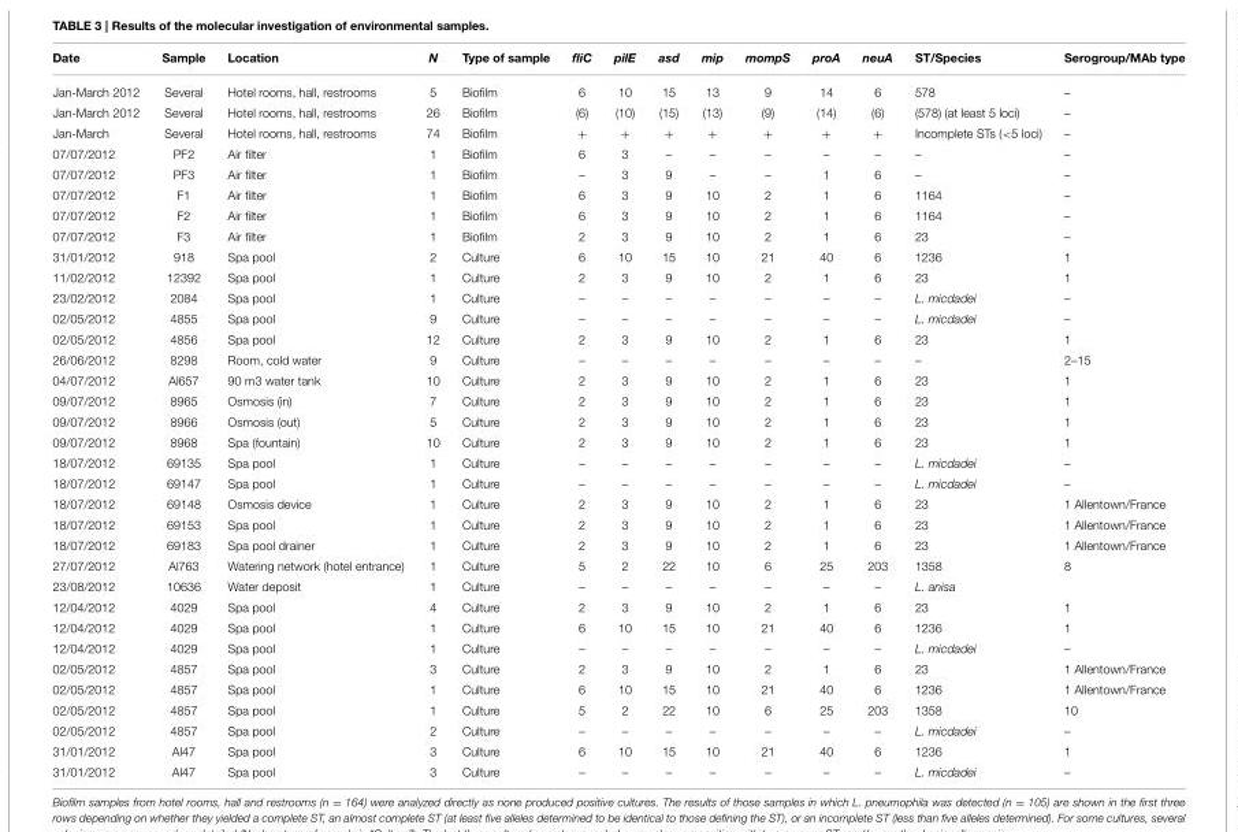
<table><thead><tr><td>Date</td><td>Sample</td><td>Location</td><td>N</td><td>Type of sample</td><td>fliC</td><td>pilE</td><td>asd</td><td>mip</td><td>mompS</td><td>proA</td><td>neuA</td><td>ST/Species</td><td>Serogroup/MAb type</td></tr></thead><tbody><tr><td>Jan-March 2012</td><td>Several</td><td>Hotel rooms, hall, restrooms</td><td>5</td><td>Biofilm</td><td>6</td><td>10</td><td>15</td><td>13</td><td>9</td><td>14</td><td>6</td><td>578</td><td>–</td></tr><tr><td>Jan-March 2012</td><td>Several</td><td>Hotel rooms, hall, restrooms</td><td>26</td><td>Biofilm</td><td>(6)</td><td>(10)</td><td>(15)</td><td>(13)</td><td>(9)</td><td>(14)</td><td>(6)</td><td>(578) (at least 5 loci)</td><td>–</td></tr><tr><td>Jan-March</td><td>Several</td><td>Hotel rooms, hall, restrooms</td><td>74</td><td>Biofilm</td><td>+</td><td>+</td><td>+</td><td>+</td><td>+</td><td>+</td><td>+</td><td>Incomplete STs (&lt;5 loci)</td><td>–</td></tr><tr><td>07/07/2012</td><td>PF2</td><td>Air filter</td><td>1</td><td>Biofilm</td><td>6</td><td>3</td><td>–</td><td>–</td><td>–</td><td>–</td><td>–</td><td>–</td><td>–</td></tr><tr><td>07/07/2012</td><td>PF3</td><td>Air filter</td><td>1</td><td>Biofilm</td><td>–</td><td>3</td><td>9</td><td>–</td><td>–</td><td>1</td><td>6</td><td>–</td><td>–</td></tr><tr><td>07/07/2012</td><td>F1</td><td>Air filter</td><td>1</td><td>Biofilm</td><td>6</td><td>3</td><td>9</td><td>10</td><td>2</td><td>1</td><td>6</td><td>1164</td><td>–</td></tr><tr><td>07/07/2012</td><td>F2</td><td>Air filter</td><td>1</td><td>Biofilm</td><td>6</td><td>3</td><td>9</td><td>10</td><td>2</td><td>1</td><td>6</td><td>1164</td><td>–</td></tr><tr><td>07/07/2012</td><td>F3</td><td>Air filter</td><td>1</td><td>Biofilm</td><td>2</td><td>3</td><td>9</td><td>10</td><td>2</td><td>1</td><td>6</td><td>23</td><td>–</td></tr><tr><td>31/01/2012</td><td>918</td><td>Spa pool</td><td>2</td><td>Culture</td><td>6</td><td>10</td><td>15</td><td>10</td><td>21</td><td>40</td><td>6</td><td>1236</td><td>1</td></tr><tr><td>11/02/2012</td><td>12392</td><td>Spa pool</td><td>1</td><td>Culture</td><td>2</td><td>3</td><td>9</td><td>10</td><td>2</td><td>1</td><td>6</td><td>23</td><td>1</td></tr><tr><td>23/02/2012</td><td>2084</td><td>Spa pool</td><td>1</td><td>Culture</td><td>–</td><td>–</td><td>–</td><td>–</td><td>–</td><td>–</td><td>–</td><td>L. micdadei</td><td>–</td></tr><tr><td>02/05/2012</td><td>4855</td><td>Spa pool</td><td>9</td><td>Culture</td><td>–</td><td>–</td><td>–</td><td>–</td><td>–</td><td>–</td><td>–</td><td>L. micdadei</td><td>–</td></tr><tr><td>02/05/2012</td><td>4856</td><td>Spa pool</td><td>12</td><td>Culture</td><td>2</td><td>3</td><td>9</td><td>10</td><td>2</td><td>1</td><td>6</td><td>23</td><td>1</td></tr><tr><td>26/06/2012</td><td>8298</td><td>Room, cold water</td><td>9</td><td>Culture</td><td>–</td><td>–</td><td>–</td><td>–</td><td>–</td><td>–</td><td>–</td><td>–</td><td>2–15</td></tr><tr><td>04/07/2012</td><td>Al657</td><td>90 m3 water tank</td><td>10</td><td>Culture</td><td>2</td><td>3</td><td>9</td><td>10</td><td>2</td><td>1</td><td>6</td><td>23</td><td>1</td></tr><tr><td>09/07/2012</td><td>8965</td><td>Osmosis (in)</td><td>7</td><td>Culture</td><td>2</td><td>3</td><td>9</td><td>10</td><td>2</td><td>1</td><td>6</td><td>23</td><td>1</td></tr><tr><td>09/07/2012</td><td>8966</td><td>Osmosis (out)</td><td>5</td><td>Culture</td><td>2</td><td>3</td><td>9</td><td>10</td><td>2</td><td>1</td><td>6</td><td>23</td><td>1</td></tr><tr><td>09/07/2012</td><td>8968</td><td>Spa (fountain)</td><td>10</td><td>Culture</td><td>2</td><td>3</td><td>9</td><td>10</td><td>2</td><td>1</td><td>6</td><td>23</td><td>1</td></tr><tr><td>18/07/2012</td><td>69135</td><td>Spa pool</td><td>1</td><td>Culture</td><td>–</td><td>–</td><td>–</td><td>–</td><td>–</td><td>–</td><td>–</td><td>L. micdadei</td><td>–</td></tr><tr><td>18/07/2012</td><td>69147</td><td>Spa pool</td><td>1</td><td>Culture</td><td>–</td><td>–</td><td>–</td><td>–</td><td>–</td><td>–</td><td>–</td><td>L. micdadei</td><td>–</td></tr><tr><td>18/07/2012</td><td>69148</td><td>Osmosis device</td><td>1</td><td>Culture</td><td>2</td><td>3</td><td>9</td><td>10</td><td>2</td><td>1</td><td>6</td><td>23</td><td>1 Allentown/France</td></tr><tr><td>18/07/2012</td><td>69153</td><td>Spa pool</td><td>1</td><td>Culture</td><td>2</td><td>3</td><td>9</td><td>10</td><td>2</td><td>1</td><td>6</td><td>23</td><td>1 Allentown/France</td></tr><tr><td>18/07/2012</td><td>69183</td><td>Spa pool drainer</td><td>1</td><td>Culture</td><td>2</td><td>3</td><td>9</td><td>10</td><td>2</td><td>1</td><td>6</td><td>23</td><td>1 Allentown/France</td></tr><tr><td>27/07/2012</td><td>Al763</td><td>Watering network (hotel entrance)</td><td>1</td><td>Culture</td><td>5</td><td>2</td><td>22</td><td>10</td><td>6</td><td>25</td><td>203</td><td>1358</td><td>8</td></tr><tr><td>23/08/2012</td><td>10636</td><td>Water deposit</td><td>1</td><td>Culture</td><td>–</td><td>–</td><td>–</td><td>–</td><td>–</td><td>–</td><td>–</td><td>L. anisa</td><td></td></tr><tr><td>12/04/2012</td><td>4029</td><td>Spa pool</td><td>4</td><td>Culture</td><td>2</td><td>3</td><td>9</td><td>10</td><td>2</td><td>1</td><td>6</td><td>23</td><td>1</td></tr><tr><td>12/04/2012</td><td>4029</td><td>Spa pool</td><td>1</td><td>Culture</td><td>6</td><td>10</td><td>15</td><td>10</td><td>21</td><td>40</td><td>6</td><td>1236</td><td>1</td></tr><tr><td>12/04/2012</td><td>4029</td><td>Spa pool</td><td>1</td><td>Culture</td><td>–</td><td>–</td><td>–</td><td>–</td><td>–</td><td>–</td><td>–</td><td>L. micdadei</td><td>–</td></tr><tr><td>02/05/2012</td><td>4857</td><td>Spa pool</td><td>3</td><td>Culture</td><td>2</td><td>3</td><td>9</td><td>10</td><td>2</td><td>1</td><td>6</td><td>23</td><td>1 Allentown/France</td></tr><tr><td>02/05/2012</td><td>4857</td><td>Spa pool</td><td>1</td><td>Culture</td><td>6</td><td>10</td><td>15</td><td>10</td><td>21</td><td>40</td><td>6</td><td>1236</td><td>1 Allentown/France</td></tr><tr><td>02/05/2012</td><td>4857</td><td>Spa pool</td><td>1</td><td>Culture</td><td>5</td><td>2</td><td>22</td><td>10</td><td>6</td><td>25</td><td>203</td><td>1358</td><td>10</td></tr><tr><td>02/05/2012</td><td>4857</td><td>Spa pool</td><td>2</td><td>Culture</td><td>–</td><td>–</td><td>–</td><td>–</td><td>–</td><td>–</td><td>–</td><td>L. micdadei</td><td>–</td></tr><tr><td>31/01/2012</td><td>Al47</td><td>Spa pool</td><td>3</td><td>Culture</td><td>6</td><td>10</td><td>15</td><td>10</td><td>21</td><td>40</td><td>6</td><td>1236</td><td>1</td></tr><tr><td>31/01/2012</td><td>Al47</td><td>Spa pool</td><td>3</td><td>Culture</td><td>–</td><td>–</td><td>–</td><td>–</td><td>–</td><td>–</td><td>–</td><td>L. micdadei</td><td>–</td></tr></tbody></table>